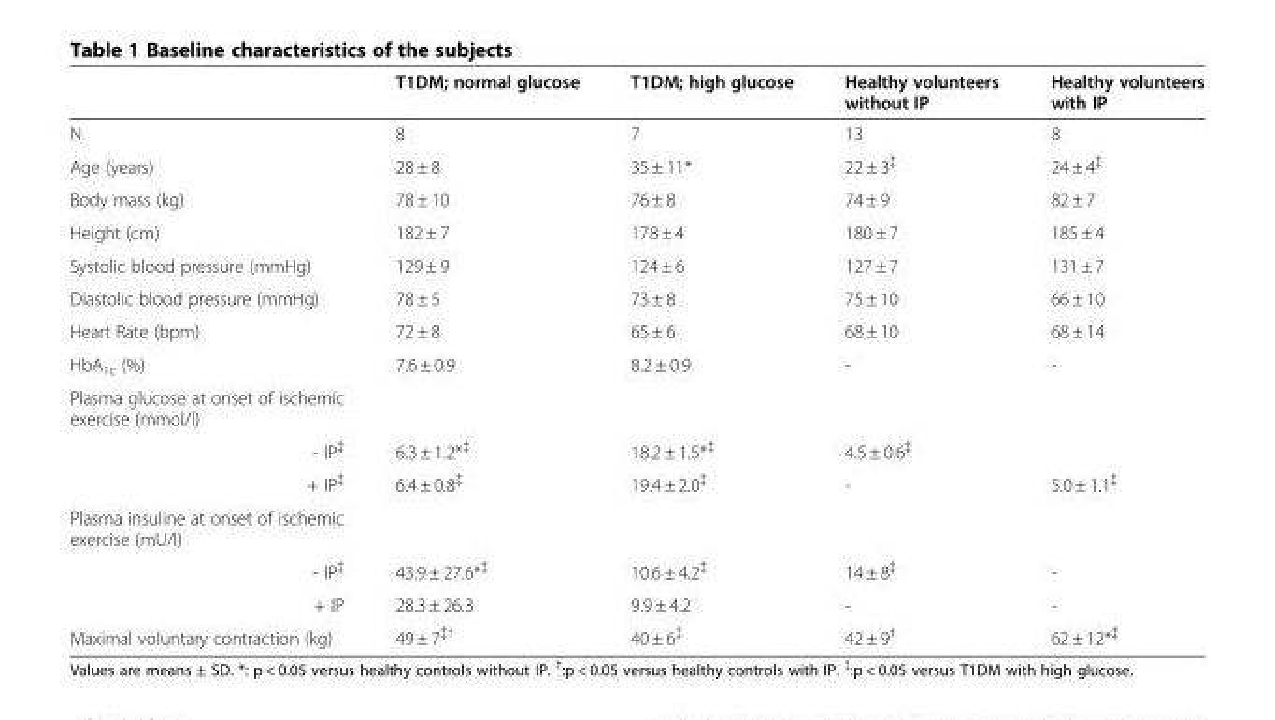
<table><thead><tr><td></td><td>T1DM; normal glucose</td><td>T1DM; high glucose</td><td>Healthy volunteers without IP</td><td>Healthy volunteers with IP</td></tr></thead><tbody><tr><td>N</td><td>8</td><td>7</td><td>13</td><td>8</td></tr><tr><td>Age (years)</td><td>28 ± 8</td><td>35 ± 11*</td><td>22 ± 3<sup>‡</sup></td><td>24 ± 4<sup>‡</sup></td></tr><tr><td>Body mass (kg)</td><td>78 ± 10</td><td>76 ± 8</td><td>74 ± 9</td><td>82 ± 7</td></tr><tr><td>Height (cm)</td><td>182 ± 7</td><td>178 ± 4</td><td>180 ± 7</td><td>185 ± 4</td></tr><tr><td>Systolic blood pressure (mmHg)</td><td>129 ± 9</td><td>124 ± 6</td><td>127 ± 7</td><td>131 ± 7</td></tr><tr><td>Diastolic blood pressure (mmHg)</td><td>78 ± 5</td><td>73 ± 8</td><td>75 ± 10</td><td>66 ± 10</td></tr><tr><td>Heart Rate (bpm)</td><td>72 ± 8</td><td>65 ± 6</td><td>68 ± 10</td><td>68 ± 14</td></tr><tr><td>HbA<sub>1c</sub> (%)</td><td>7.6 ± 0.9</td><td>8.2 ± 0.9</td><td>-</td><td>-</td></tr><tr><td colspan="5">Plasma glucose at onset of ischemic exercise (mmol/l)</td></tr><tr><td>- IP<sup>‡</sup></td><td>6.3 ± 1.2*<sup>‡</sup></td><td>18.2 ± 1.5*<sup>‡</sup></td><td>4.5 ± 0.6<sup>‡</sup></td><td></td></tr><tr><td>+ IP<sup>‡</sup></td><td>6.4 ± 0.8<sup>‡</sup></td><td>19.4 ± 2.0<sup>‡</sup></td><td>-</td><td>5.0 ± 1.1<sup>‡</sup></td></tr><tr><td colspan="5">Plasma insuline at onset of ischemic exercise (mU/l)</td></tr><tr><td>- IP<sup>‡</sup></td><td>43.9 ± 27.6*<sup>‡</sup></td><td>10.6 ± 4.2<sup>‡</sup></td><td>14 ± 8<sup>‡</sup></td><td>-</td></tr><tr><td>+ IP</td><td>28.3 ± 26.3</td><td>9.9 ± 4.2</td><td>-</td><td>-</td></tr><tr><td>Maximal voluntary contraction (kg)</td><td>49 ± 7<sup>‡†</sup></td><td>40 ± 6<sup>‡</sup></td><td>42 ± 9<sup>†</sup></td><td>62 ± 12*<sup>‡</sup></td></tr></tbody></table>